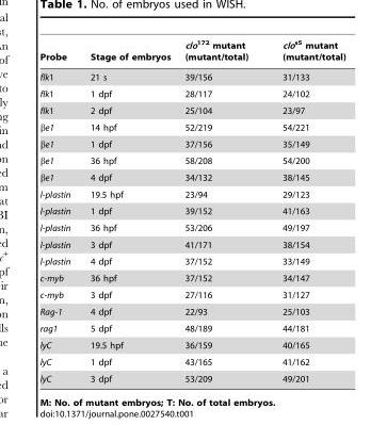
<table><thead><tr><td>Probe</td><td>Stage of embryos</td><td>clo<sup>172</sup> mutant (mutant/total)</td><td>clo<sup>s5</sup> mutant (mutant/total)</td></tr></thead><tbody><tr><td>flk1</td><td>21 s</td><td>39/156</td><td>31/133</td></tr><tr><td>flk1</td><td>1 dpf</td><td>28/117</td><td>24/102</td></tr><tr><td>flk1</td><td>2 dpf</td><td>25/104</td><td>23/97</td></tr><tr><td>βe1</td><td>14 hpf</td><td>52/219</td><td>54/221</td></tr><tr><td>βe1</td><td>1 dpf</td><td>37/156</td><td>35/149</td></tr><tr><td>βe1</td><td>36 hpf</td><td>58/208</td><td>54/200</td></tr><tr><td>βe1</td><td>4 dpf</td><td>34/132</td><td>38/145</td></tr><tr><td>l-plastin</td><td>19.5 hpf</td><td>23/94</td><td>29/123</td></tr><tr><td>l-plastin</td><td>1 dpf</td><td>39/152</td><td>41/163</td></tr><tr><td>l-plastin</td><td>36 hpf</td><td>53/206</td><td>49/197</td></tr><tr><td>l-plastin</td><td>3 dpf</td><td>41/171</td><td>38/154</td></tr><tr><td>l-plastin</td><td>4 dpf</td><td>37/152</td><td>33/149</td></tr><tr><td>c-myb</td><td>36 hpf</td><td>37/152</td><td>34/147</td></tr><tr><td>c-myb</td><td>3 dpf</td><td>27/116</td><td>31/127</td></tr><tr><td>Rag-1</td><td>4 dpf</td><td>22/93</td><td>25/103</td></tr><tr><td>rag1</td><td>5 dpf</td><td>48/189</td><td>44/181</td></tr><tr><td>lyC</td><td>19.5 hpf</td><td>36/159</td><td>40/165</td></tr><tr><td>lyC</td><td>1 dpf</td><td>43/165</td><td>41/162</td></tr><tr><td>lyC</td><td>3 dpf</td><td>53/209</td><td>49/201</td></tr></tbody></table>